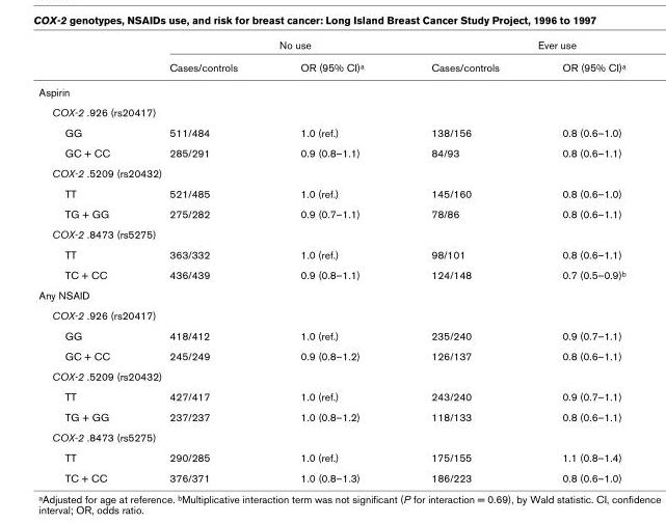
<table><thead><tr><td rowspan="2"></td><td colspan="2">No use</td><td colspan="2">Ever use</td></tr><tr><td>Cases/controls</td><td>OR (95% CI)a</td><td>Cases/controls</td><td>OR (95% CI)a</td></tr></thead><tbody><tr><td colspan="5">Aspirin</td></tr><tr><td colspan="5">COX-2 .926 (rs20417)</td></tr><tr><td>GG</td><td>511/484</td><td>1.0 (ref.)</td><td>138/156</td><td>0.8 (0.6–1.0)</td></tr><tr><td>GC + CC</td><td>285/291</td><td>0.9 (0.8–1.1)</td><td>84/93</td><td>0.8 (0.6–1.1)</td></tr><tr><td colspan="5">COX-2 .5209 (rs20432)</td></tr><tr><td>TT</td><td>521/485</td><td>1.0 (ref.)</td><td>145/160</td><td>0.8 (0.6–1.0)</td></tr><tr><td>TG + GG</td><td>275/282</td><td>0.9 (0.7–1.1)</td><td>78/86</td><td>0.8 (0.6–1.1)</td></tr><tr><td colspan="5">COX-2 .8473 (rs5275)</td></tr><tr><td>TT</td><td>363/332</td><td>1.0 (ref.)</td><td>98/101</td><td>0.8 (0.6–1.1)</td></tr><tr><td>TC + CC</td><td>436/439</td><td>0.9 (0.8–1.1)</td><td>124/148</td><td>0.7 (0.5–0.9)b</td></tr><tr><td colspan="5">Any NSAID</td></tr><tr><td colspan="5">COX-2 .926 (rs20417)</td></tr><tr><td>GG</td><td>418/412</td><td>1.0 (ref.)</td><td>235/240</td><td>0.9 (0.7–1.1)</td></tr><tr><td>GC + CC</td><td>245/249</td><td>0.9 (0.8–1.2)</td><td>126/137</td><td>0.8 (0.6–1.1)</td></tr><tr><td colspan="5">COX-2 .5209 (rs20432)</td></tr><tr><td>TT</td><td>427/417</td><td>1.0 (ref.)</td><td>243/240</td><td>0.9 (0.7–1.1)</td></tr><tr><td>TG + GG</td><td>237/237</td><td>1.0 (0.8–1.2)</td><td>118/133</td><td>0.8 (0.6–1.1)</td></tr><tr><td colspan="5">COX-2 .8473 (rs5275)</td></tr><tr><td>TT</td><td>290/285</td><td>1.0 (ref.)</td><td>175/155</td><td>1.1 (0.8–1.4)</td></tr><tr><td>TC + CC</td><td>376/371</td><td>1.0 (0.8–1.3)</td><td>186/223</td><td>0.8 (0.6–1.0)</td></tr></tbody></table>